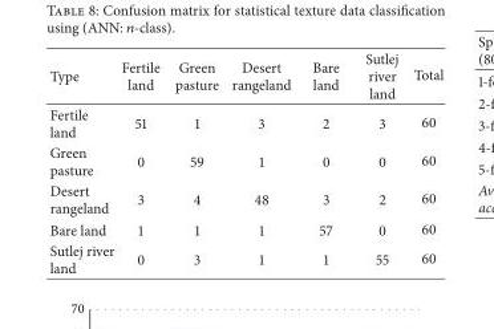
<table><thead><tr><td>Type</td><td>Fertile land</td><td>Green pasture</td><td>Desert rangeland</td><td>Bare land</td><td>Sutlej river land</td><td>Total</td></tr></thead><tbody><tr><td>Fertile land</td><td>51</td><td>1</td><td>3</td><td>2</td><td>3</td><td>60</td></tr><tr><td>Green pasture</td><td>0</td><td>59</td><td>1</td><td>0</td><td>0</td><td>60</td></tr><tr><td>Desert rangeland</td><td>3</td><td>4</td><td>48</td><td>3</td><td>2</td><td>60</td></tr><tr><td>Bare land</td><td>1</td><td>1</td><td>1</td><td>57</td><td>0</td><td>60</td></tr><tr><td>Sutlej river land</td><td>0</td><td>3</td><td>1</td><td>1</td><td>55</td><td>60</td></tr></tbody></table>